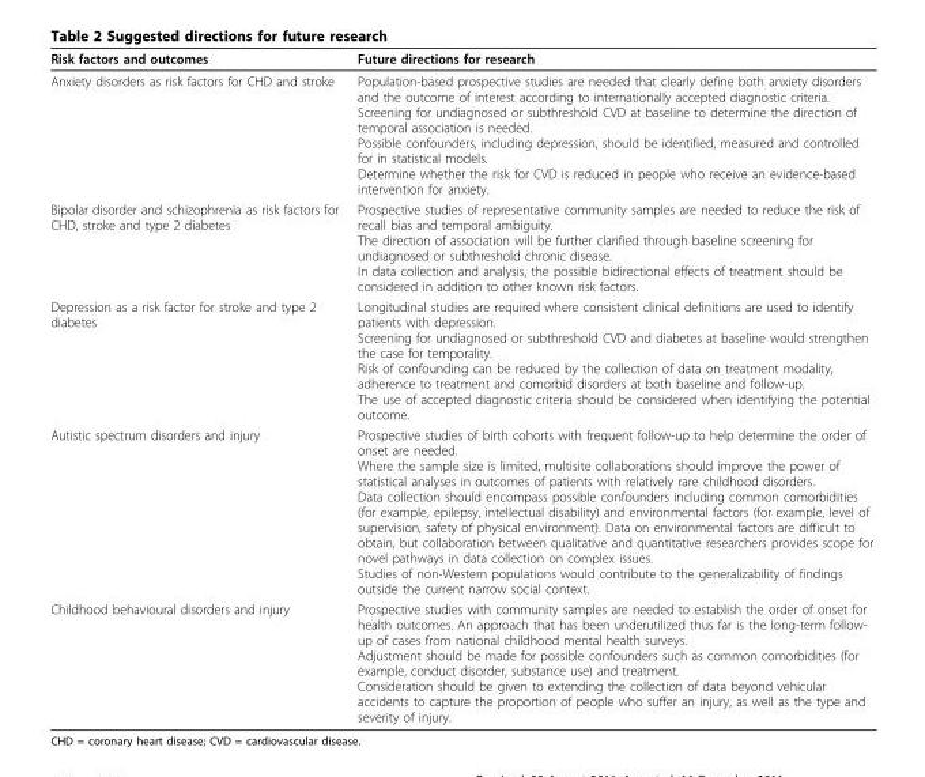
<table><thead><tr><td>Risk factors and outcomes</td><td>Future directions for research</td></tr></thead><tbody><tr><td>Anxiety disorders as risk factors for CHD and stroke</td><td>Population-based prospective studies are needed that clearly define both anxiety disorders and the outcome of interest according to internationally accepted diagnostic criteria. Screening for undiagnosed or subthreshold CVD at baseline to determine the direction of temporal association is needed. Possible confounders, including depression, should be identified, measured and controlled for in statistical models. Determine whether the risk for CVD is reduced in people who receive an evidence-based intervention for anxiety.</td></tr><tr><td>Bipolar disorder and schizophrenia as risk factors for CHD, stroke and type 2 diabetes</td><td>Prospective studies of representative community samples are needed to reduce the risk of recall bias and temporal ambiguity. The direction of association will be further clarified through baseline screening for undiagnosed or subthreshold chronic disease. In data collection and analysis, the possible bidirectional effects of treatment should be considered in addition to other known risk factors.</td></tr><tr><td>Depression as a risk factor for stroke and type 2 diabetes</td><td>Longitudinal studies are required where consistent clinical definitions are used to identify patients with depression. Screening for undiagnosed or subthreshold CVD and diabetes at baseline would strengthen the case for temporality. Risk of confounding can be reduced by the collection of data on treatment modality, adherence to treatment and comorbid disorders at both baseline and follow-up. The use of accepted diagnostic criteria should be considered when identifying the potential outcome.</td></tr><tr><td>Autistic spectrum disorders and injury</td><td>Prospective studies of birth cohorts with frequent follow-up to help determine the order of onset are needed. Where the sample size is limited, multisite collaborations should improve the power of statistical analyses in outcomes of patients with relatively rare childhood disorders. Data collection should encompass possible confounders including common comorbidities (for example, epilepsy, intellectual disability) and environmental factors (for example, level of supervision, safety of physical environment). Data on environmental factors are difficult to obtain, but collaboration between qualitative and quantitative researchers provides scope for novel pathways in data collection on complex issues. Studies of non-Western populations would contribute to the generalizability of findings outside the current narrow social context.</td></tr><tr><td>Childhood behavioural disorders and injury</td><td>Prospective studies with community samples are needed to establish the order of onset for health outcomes. An approach that has been underutilized thus far is the long-term follow- up of cases from national childhood mental health surveys. Adjustment should be made for possible confounders such as common comorbidities (for example, conduct disorder, substance use) and treatment. Consideration should be given to extending the collection of data beyond vehicular accidents to capture the proportion of people who suffer an injury, as well as the type and severity of injury.</td></tr></tbody></table>